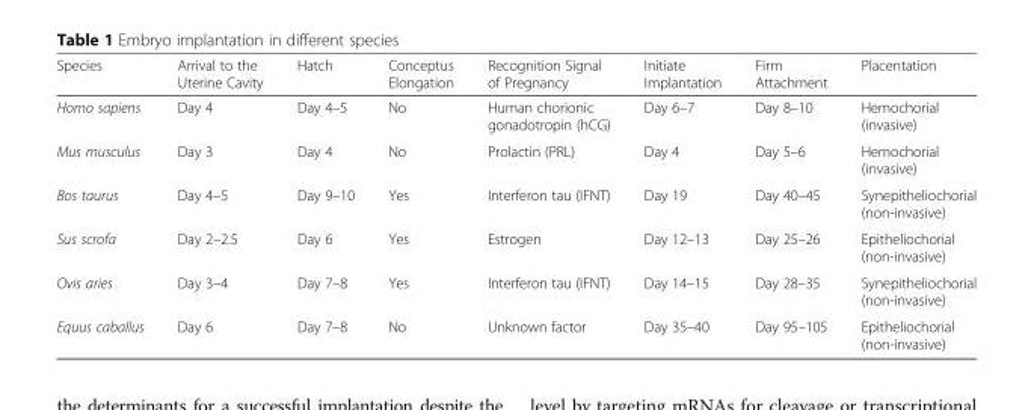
<table><thead><tr><td>Species</td><td>Arrival to the Uterine Cavity</td><td>Hatch</td><td>Conceptus Elongation</td><td>Recognition Signal of Pregnancy</td><td>Initiate Implantation</td><td>Firm Attachment</td><td>Placentation</td></tr></thead><tbody><tr><td>Homo sapiens</td><td>Day 4</td><td>Day 4–5</td><td>No</td><td>Human chorionic gonadotropin (hCG)</td><td>Day 6–7</td><td>Day 8–10</td><td>Hemochorial (invasive)</td></tr><tr><td>Mus musculus</td><td>Day 3</td><td>Day 4</td><td>No</td><td>Prolactin (PRL)</td><td>Day 4</td><td>Day 5–6</td><td>Hemochorial (invasive)</td></tr><tr><td>Bos taurus</td><td>Day 4–5</td><td>Day 9–10</td><td>Yes</td><td>Interferon tau (IFNT)</td><td>Day 19</td><td>Day 40–45</td><td>Synepitheliochorial (non-invasive)</td></tr><tr><td>Sus scrofa</td><td>Day 2–2.5</td><td>Day 6</td><td>Yes</td><td>Estrogen</td><td>Day 12–13</td><td>Day 25–26</td><td>Epitheliochorial (non-invasive)</td></tr><tr><td>Ovis aries</td><td>Day 3–4</td><td>Day 7–8</td><td>Yes</td><td>Interferon tau (IFNT)</td><td>Day 14–15</td><td>Day 28–35</td><td>Synepitheliochorial (non-invasive)</td></tr><tr><td>Equus caballus</td><td>Day 6</td><td>Day 7–8</td><td>No</td><td>Unknown factor</td><td>Day 35–40</td><td>Day 95–105</td><td>Epitheliochorial (non-invasive)</td></tr></tbody></table>